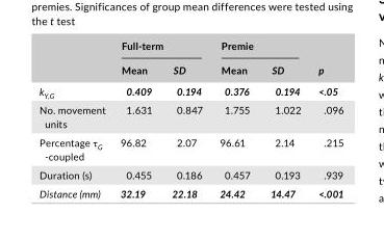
<table><thead><tr><td rowspan="2"></td><td colspan="2">Full- term</td><td colspan="2">Premie</td><td rowspan="2">p</td></tr><tr><td>Mean</td><td>SD</td><td>Mean</td><td>SD</td></tr></thead><tbody><tr><td>k<sub>Y,G</sub></td><td>0.409</td><td>0.194</td><td>0.376</td><td>0.194</td><td>&lt;.05</td></tr><tr><td>No. movement units</td><td>1.631</td><td>0.847</td><td>1.755</td><td>1.022</td><td>.096</td></tr><tr><td>Percentage τ<sub>G</sub> -coupled</td><td>96.82</td><td>2.07</td><td>96.61</td><td>2.14</td><td>.215</td></tr><tr><td>Duration (s)</td><td>0.455</td><td>0.186</td><td>0.457</td><td>0.193</td><td>.939</td></tr><tr><td>Distance (mm)</td><td>32.19</td><td>22.18</td><td>24.42</td><td>14.47</td><td>&lt;.001</td></tr></tbody></table>